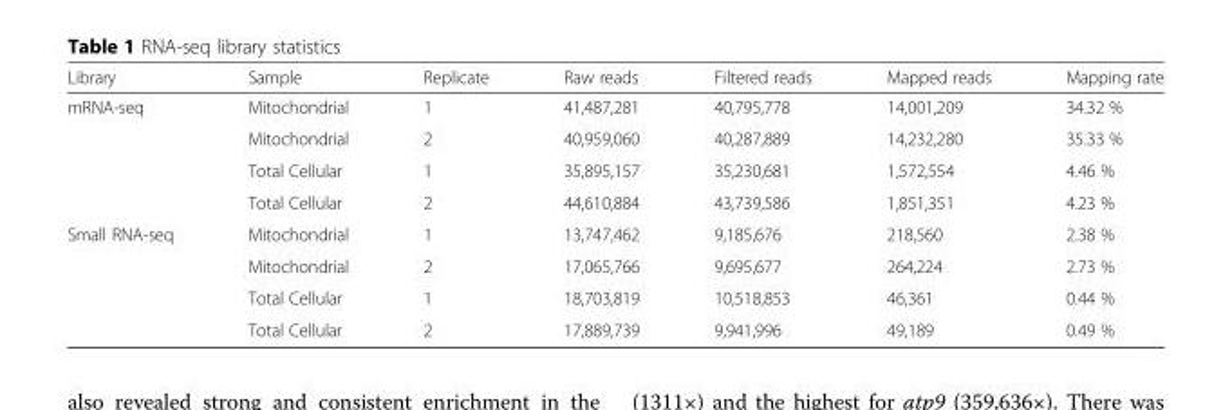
<table><thead><tr><td>Library</td><td>Sample</td><td>Replicate</td><td>Raw reads</td><td>Filtered reads</td><td>Mapped reads</td><td>Mapping rate</td></tr></thead><tbody><tr><td rowspan="4">mRNA-seq</td><td>Mitochondrial</td><td>1</td><td>41,487,281</td><td>40,795,778</td><td>14,001,209</td><td>34.32 %</td></tr><tr><td>Mitochondrial</td><td>2</td><td>40,959,060</td><td>40,287,889</td><td>14,232,280</td><td>35.33 %</td></tr><tr><td>Total Cellular</td><td>1</td><td>35,895,157</td><td>35,230,681</td><td>1,572,554</td><td>4.46 %</td></tr><tr><td>Total Cellular</td><td>2</td><td>44,610,884</td><td>43,739,586</td><td>1,851,351</td><td>4.23 %</td></tr><tr><td rowspan="4">Small RNA-seq</td><td>Mitochondrial</td><td>1</td><td>13,747,462</td><td>9,185,676</td><td>218,560</td><td>2.38 %</td></tr><tr><td>Mitochondrial</td><td>2</td><td>17,065,766</td><td>9,695,677</td><td>264,224</td><td>2.73 %</td></tr><tr><td>Total Cellular</td><td>1</td><td>18,703,819</td><td>10,518,853</td><td>46,361</td><td>0.44 %</td></tr><tr><td>Total Cellular</td><td>2</td><td>17,889,739</td><td>9,941,996</td><td>49,189</td><td>0.49 %</td></tr></tbody></table>